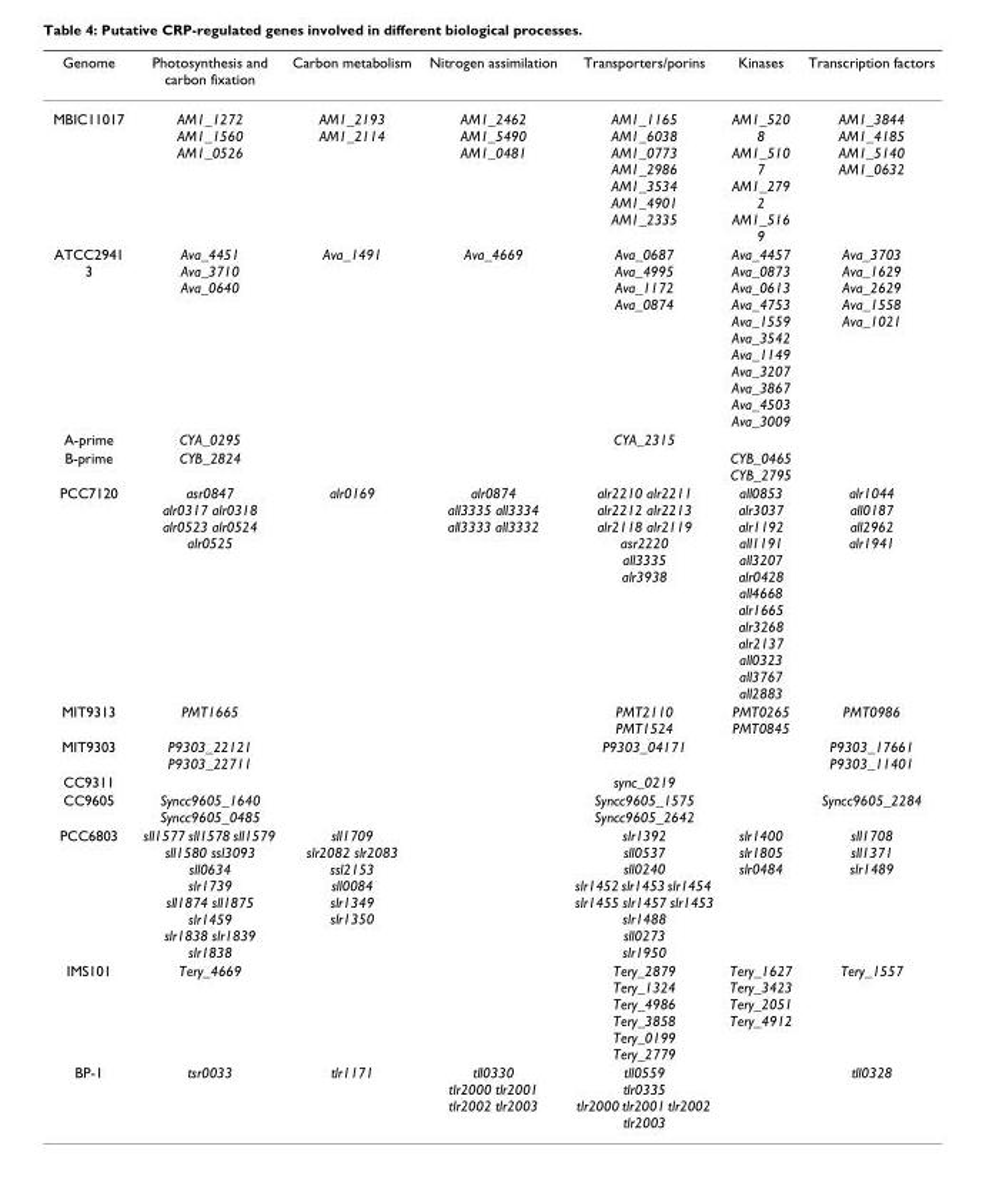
<table><thead><tr><td>Genome</td><td>Photosynthesis and carbon fixation</td><td>Carbon metabolism</td><td>Nitrogen assimilation</td><td>Transporters/porins</td><td>Kinases</td><td>Transcription factors</td></tr></thead><tbody><tr><td>MBIC11017</td><td>AM1_1272 AM1_1560 AM1_0526</td><td>AM1_2193 AM1_2114</td><td>AM1_2462 AM1_5490 AM1_0481</td><td>AM1_1165 AM1_6038 AM1_0773 AM1_2986 AM1_3534 AM1_4901 AM1_2335</td><td>AM1_520 8 AM1_510 7 AM1_279 2 AM1_516 9</td><td>AM1_3844 AM1_4185 AM1_5140 AM1_0632</td></tr><tr><td>ATCC2941 3</td><td>Ava_4451 Ava_3710 Ava_0640</td><td>Ava_1491</td><td>Ava_4669</td><td>Ava_0687 Ava_4995 Ava_1172 Ava_0874</td><td>Ava_4457 Ava_0873 Ava_0613 Ava_4753 Ava_1559 Ava_3542 Ava_1149 Ava_3207 Ava_3867 Ava_4503 Ava_3009</td><td>Ava_3703 Ava_1629 Ava_2629 Ava_1558 Ava_1021</td></tr><tr><td>A-prime</td><td>CYA_0295</td><td></td><td></td><td>CYA_2315</td><td></td><td></td></tr><tr><td>B-prime</td><td>CYB_2824</td><td></td><td></td><td></td><td>CYB_0465 CYB_2795</td><td></td></tr><tr><td>PCC7120</td><td>asr0847 alr0317 alr0318 alr0523 alr0524 alr0525</td><td>alr0169</td><td>alr0874 all3335 all3334 all3333 all3332</td><td>alr2210 alr2211 alr2212 alr2213 alr2118 alr2119 asr2220 all3335 alr3938</td><td>all0853 alr3037 alr1192 all1191 all3207 alr0428 all4668 alr1665 alr3268 alr2137 all0323 all3767 all2883</td><td>alr1044 all0187 all2962 alr1941</td></tr><tr><td>MIT9313</td><td>PMT1665</td><td></td><td></td><td>PMT2110 PMT1524</td><td>PMT0265 PMT0845</td><td>PMT0986</td></tr><tr><td>MIT9303</td><td>P9303_22121 P9303_22711</td><td></td><td></td><td>P9303_04171</td><td></td><td>P9303_17661 P9303_11401</td></tr><tr><td>CC9311</td><td></td><td></td><td></td><td>sync_0219</td><td></td><td></td></tr><tr><td>CC9605</td><td>Syncc9605_1640 Syncc9605_0485</td><td></td><td></td><td>Syncc9605_1575 Syncc9605_2642</td><td></td><td>Syncc9605_2284</td></tr><tr><td>PCC6803</td><td>sll1577 sll1578 sll1579 sll1580 ssl3093 sll0634 slr1739 sll1874 sll1875 slr1459 slr1838 slr1839 slr1838</td><td>sll1709 slr2082 slr2083 ssl2153 sll0084 slr1349 slr1350</td><td></td><td>slr1392 sll0537 sll0240 slr1452 slr1453 slr1454 slr1455 slr1457 slr1453 slr1488 sll0273 slr1950</td><td>slr1400 slr1805 slr0484</td><td>sll1708 sll1371 slr1489</td></tr><tr><td>IMS101</td><td>Tery_4669</td><td></td><td></td><td>Tery_2879 Tery_1324 Tery_4986 Tery_3858 Tery_0199 Tery_2779</td><td>Tery_1627 Tery_3423 Tery_2051 Tery_4912</td><td>Tery_1557</td></tr><tr><td>BP-1</td><td>tsr0033</td><td>tlr1171</td><td>tll0330 tlr2000 tlr2001 tlr2002 tlr2003</td><td>tll0559 tlr0335 tlr2000 tlr2001 tlr2002 tlr2003</td><td></td><td>tll0328</td></tr></tbody></table>